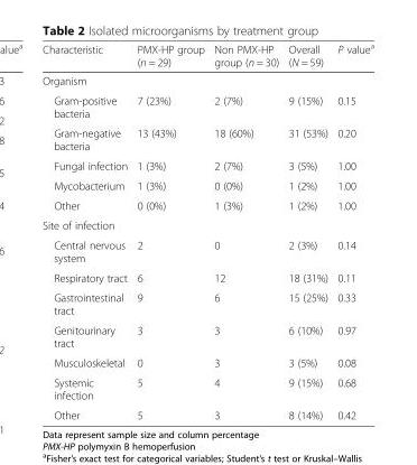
<table><thead><tr><td>Characteristic</td><td>PMX-HP group (n = 29)</td><td>Non PMX-HP group (n = 30)</td><td>Overall (N = 59)</td><td>P value<sup>a</sup></td></tr></thead><tbody><tr><td colspan="5">Organism</td></tr><tr><td>Gram-positive bacteria</td><td>7 (23%)</td><td>2 (7%)</td><td>9 (15%)</td><td>0.15</td></tr><tr><td>Gram-negative bacteria</td><td>13 (43%)</td><td>18 (60%)</td><td>31 (53%)</td><td>0.20</td></tr><tr><td>Fungal infection</td><td>1 (3%)</td><td>2 (7%)</td><td>3 (5%)</td><td>1.00</td></tr><tr><td>Mycobacterium</td><td>1 (3%)</td><td>0 (0%)</td><td>1 (2%)</td><td>1.00</td></tr><tr><td>Other</td><td>0 (0%)</td><td>1 (3%)</td><td>1 (2%)</td><td>1.00</td></tr><tr><td colspan="5">Site of infection</td></tr><tr><td>Central nervous system</td><td>2</td><td>0</td><td>2 (3%)</td><td>0.14</td></tr><tr><td>Respiratory tract</td><td>6</td><td>12</td><td>18 (31%)</td><td>0.11</td></tr><tr><td>Gastrointestinal tract</td><td>9</td><td>6</td><td>15 (25%)</td><td>0.33</td></tr><tr><td>Genitourinary tract</td><td>3</td><td>3</td><td>6 (10%)</td><td>0.97</td></tr><tr><td>Musculoskeletal</td><td>0</td><td>3</td><td>3 (5%)</td><td>0.08</td></tr><tr><td>Systemic infection</td><td>5</td><td>4</td><td>9 (15%)</td><td>0.68</td></tr><tr><td>Other</td><td>5</td><td>3</td><td>8 (14%)</td><td>0.42</td></tr></tbody></table>